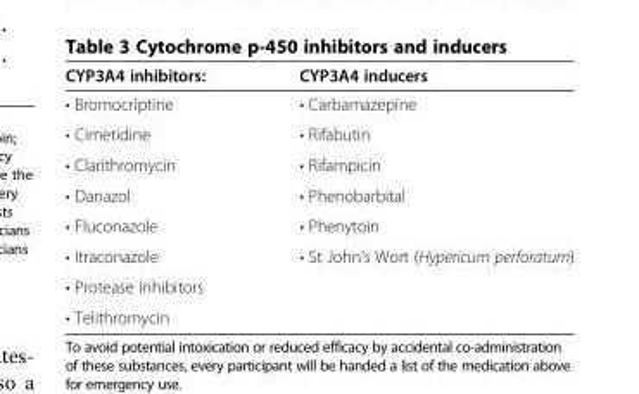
<table><thead><tr><td>CYP3A4 inhibitors:</td><td>CYP3A4 inducers</td></tr></thead><tbody><tr><td>• Bromocriptine</td><td>• Carbamazepine</td></tr><tr><td>• Cimetidine</td><td>• Rifabutin</td></tr><tr><td>• Clarithromycin</td><td>• Rifampicin</td></tr><tr><td>• Danazol</td><td>• Phenobarbital</td></tr><tr><td>• Fluconazole</td><td>• Phenytoin</td></tr><tr><td>• Itraconazole</td><td>• St John’s Wort (Hypericum perforatum)</td></tr><tr><td colspan="2">• Protease inhibitors</td></tr><tr><td>• Telithromycin</td><td></td></tr></tbody></table>